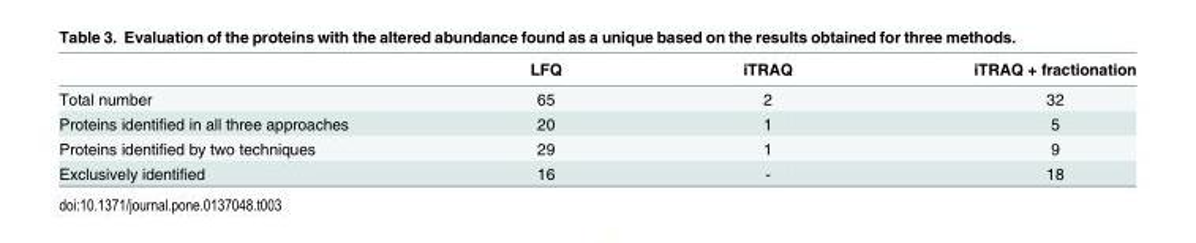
<table><thead><tr><td></td><td>LFQ</td><td>iTRAQ</td><td>iTRAQ + fractionation</td></tr></thead><tbody><tr><td>Total number</td><td>65</td><td>2</td><td>32</td></tr><tr><td>Proteins identified in all three approaches</td><td>20</td><td>1</td><td>5</td></tr><tr><td>Proteins identified by two techniques</td><td>29</td><td>1</td><td>9</td></tr><tr><td>Exclusively identified</td><td>16</td><td>-</td><td>18</td></tr></tbody></table>